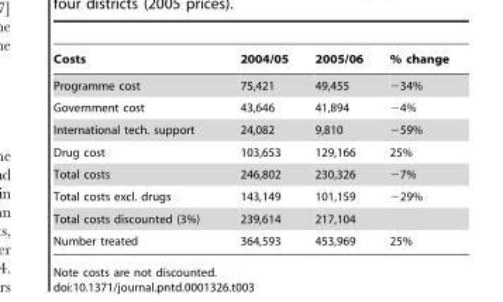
<table><thead><tr><td>Costs</td><td>2004/05</td><td>2005/06</td><td>% change</td></tr></thead><tbody><tr><td>Programme cost</td><td>75,421</td><td>49,455</td><td>−34%</td></tr><tr><td>Government cost</td><td>43,646</td><td>41,894</td><td>−4%</td></tr><tr><td>International tech. support</td><td>24,082</td><td>9,810</td><td>−59%</td></tr><tr><td>Drug cost</td><td>103,653</td><td>129,166</td><td>25%</td></tr><tr><td>Total costs</td><td>246,802</td><td>230,326</td><td>−7%</td></tr><tr><td>Total costs excl. drugs</td><td>143,149</td><td>101,159</td><td>−29%</td></tr><tr><td>Total costs discounted (3%)</td><td>239,614</td><td>217,104</td><td></td></tr><tr><td>Number treated</td><td>364,593</td><td>453,969</td><td>25%</td></tr></tbody></table>